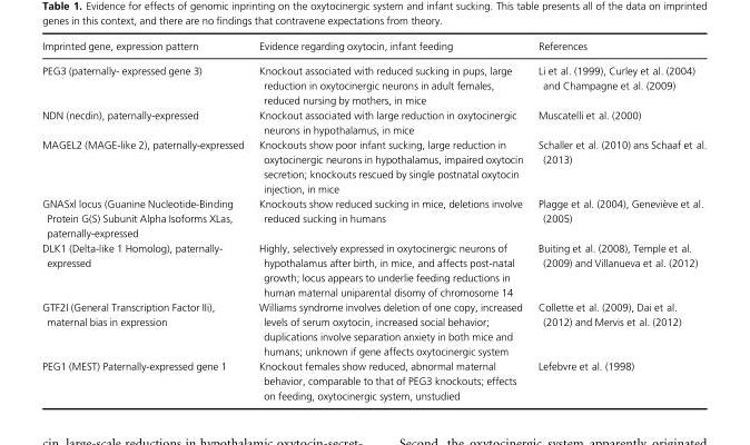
<table><thead><tr><td>Imprinted gene, expression pattern</td><td>Evidence regarding oxytocin, infant feeding</td><td>References</td></tr></thead><tbody><tr><td>PEG3 (paternally- expressed gene 3)</td><td>Knockout associated with reduced sucking in pups, large reduction in oxytocinergic neurons in adult females, reduced nursing by mothers, in mice</td><td>Li et al. (1999), Curley et al. (2004) and Champagne et al. (2009)</td></tr><tr><td>NDN (necdin), paternally-expressed</td><td>Knockout associated with large reduction in oxytocinergic neurons in hypothalamus, in mice</td><td>Muscatelli et al. (2000)</td></tr><tr><td>MAGEL2 (MAGE-like 2), paternally-expressed</td><td>Knockouts show poor infant sucking, large reduction in oxytocinergic neurons in hypothalamus, impaired oxytocin secretion; knockouts rescued by single postnatal oxytocin injection, in mice</td><td>Schaller et al. (2010) ans Schaaf et al. (2013)</td></tr><tr><td>GNASxl locus (Guanine Nucleotide-Binding Protein G(S) Subunit Alpha Isoforms XLas, paternally-expressed</td><td>Knockouts show reduced sucking in mice, deletions involve reduced sucking in humans</td><td>Plagge et al. (2004), Genevi�eve et al. (2005)</td></tr><tr><td>DLK1 (Delta-like 1 Homolog), paternally- expressed</td><td>Highly, selectively expressed in oxytocinergic neurons of hypothalamus after birth, in mice, and affects post-natal growth; locus appears to underlie feeding reductions in human maternal uniparental disomy of chromosome 14</td><td>Buiting et al. (2008), Temple et al. (2009) and Villanueva et al. (2012)</td></tr><tr><td>GTF2I (General Transcription Factor IIi), maternal bias in expression</td><td>Williams syndrome involves deletion of one copy, increased levels of serum oxytocin, increased social behavior; duplications involve separation anxiety in both mice and humans; unknown if gene affects oxytocinergic system</td><td>Collette et al. (2009), Dai et al. (2012) and Mervis et al. (2012)</td></tr><tr><td>PEG1 (MEST) Paternally-expressed gene 1</td><td>Knockout females show reduced, abnormal maternal behavior, comparable to that of PEG3 knockouts; effects on feeding, oxytocinergic system, unstudied</td><td>Lefebvre et al. (1998)</td></tr></tbody></table>